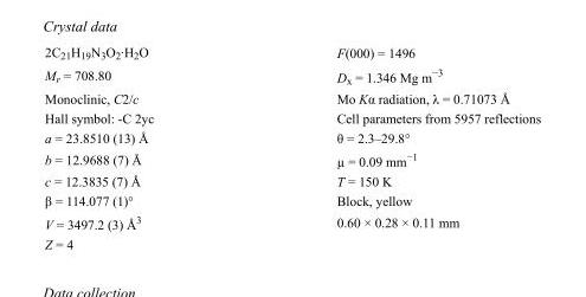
<table><tbody><tr><td>2C<sub>21</sub>H<sub>19</sub>N<sub>3</sub>O<sub>2</sub>·H<sub>2</sub>O</td><td>F(000) = 1496</td></tr><tr><td>M<sub>r</sub> = 708.80</td><td>D<sub>x</sub> = 1.346 Mg m<sup>−3</sup></td></tr><tr><td>Monoclinic, C2/c</td><td>Mo Kα radiation, λ = 0.71073 Å</td></tr><tr><td>Hall symbol: -C 2yc</td><td>Cell parameters from 5957 reflections</td></tr><tr><td>a = 23.8510 (13) Å</td><td>θ = 2.3–29.8°</td></tr><tr><td>b = 12.9688 (7) Å</td><td>µ = 0.09 mm<sup>−1</sup></td></tr><tr><td>c = 12.3835 (7) Å</td><td>T = 150 K</td></tr><tr><td>β = 114.077 (1)°</td><td>Block, yellow</td></tr><tr><td>V = 3497.2 (3) Å<sup>3</sup></td><td>0.60 × 0.28 × 0.11 mm</td></tr><tr><td>Z = 4</td><td></td></tr></tbody></table>